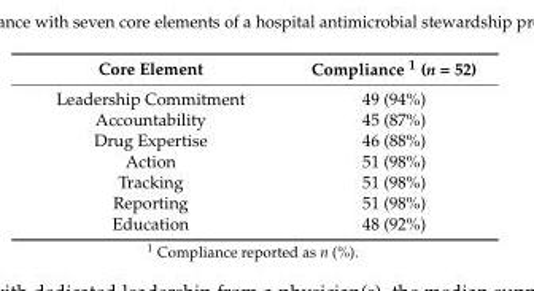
<table><thead><tr><td>Core Element</td><td>Compliance <sup>1</sup> (n = 52)</td></tr></thead><tbody><tr><td>Leadership Commitment</td><td>49 (94%)</td></tr><tr><td>Accountability</td><td>45 (87%)</td></tr><tr><td>Drug Expertise</td><td>46 (88%)</td></tr><tr><td>Action</td><td>51 (98%)</td></tr><tr><td>Tracking</td><td>51 (98%)</td></tr><tr><td>Reporting</td><td>51 (98%)</td></tr><tr><td>Education</td><td>48 (92%)</td></tr></tbody></table>